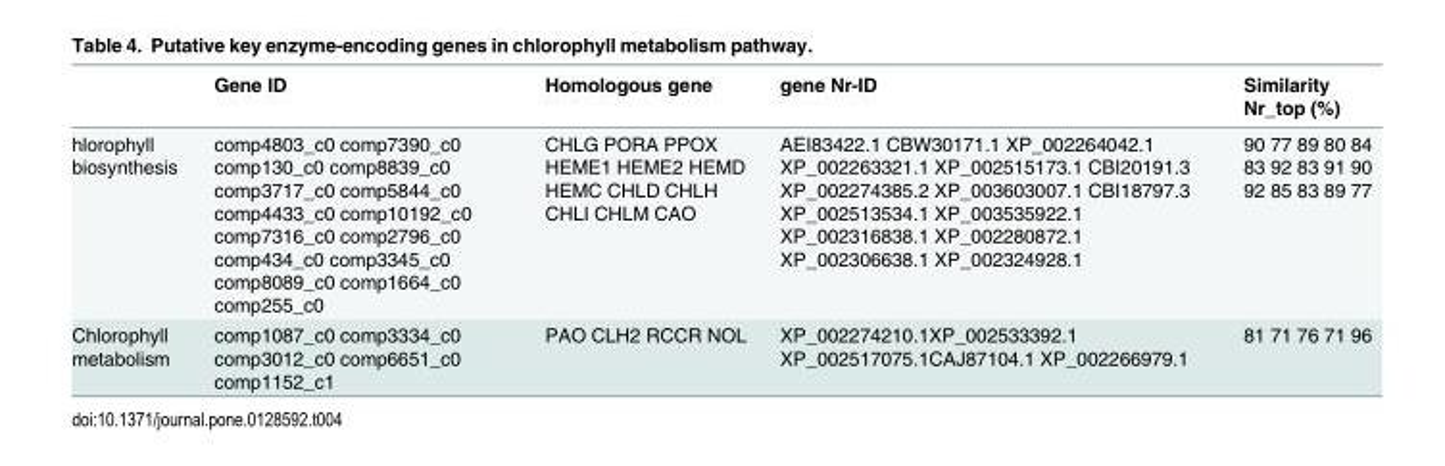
<table><thead><tr><td></td><td>Gene ID</td><td>Homologous gene</td><td>gene Nr-ID</td><td>Similarity Nr_top (%)</td></tr></thead><tbody><tr><td>hlorophyll biosynthesis</td><td>comp4803_c0 comp7390_c0 comp130_c0 comp8839_c0 comp3717_c0 comp5844_c0 comp4433_c0 comp10192_c0 comp7316_c0 comp2796_c0 comp434_c0 comp3345_c0 comp8089_c0 comp1664_c0 comp255_c0</td><td>CHLG PORA PPOX HEME1 HEME2 HEMD HEMC CHLD CHLH CHLI CHLM CAO</td><td>AEI83422.1 CBW30171.1 XP_002264042.1 XP_002263321.1 XP_002515173.1 CBI20191.3 XP_002274385.2 XP_003603007.1 CBI18797.3 XP_002513534.1 XP_003535922.1 XP_002316838.1 XP_002280872.1 XP_002306638.1 XP_002324928.1</td><td>90 77 89 80 84 83 92 83 91 90 92 85 83 89 77</td></tr><tr><td>Chlorophyll metabolism</td><td>comp1087_c0 comp3334_c0 comp3012_c0 comp6651_c0 comp1152_c1</td><td>PAO CLH2 RCCR NOL</td><td>XP_002274210.1XP_002533392.1 XP_002517075.1CAJ87104.1 XP_002266979.1</td><td>81 71 76 71 96</td></tr></tbody></table>